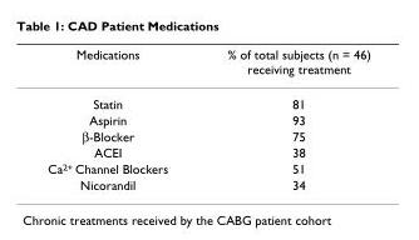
<table><thead><tr><td>Medications</td><td>% of total subjects (n = 46) receiving treatment</td></tr></thead><tbody><tr><td>Statin</td><td>81</td></tr><tr><td>Aspirin</td><td>93</td></tr><tr><td>β-Blocker</td><td>75</td></tr><tr><td>ACEI</td><td>38</td></tr><tr><td>Ca<sup>2+</sup> Channel Blockers</td><td>51</td></tr><tr><td>Nicorandil</td><td>34</td></tr></tbody></table>